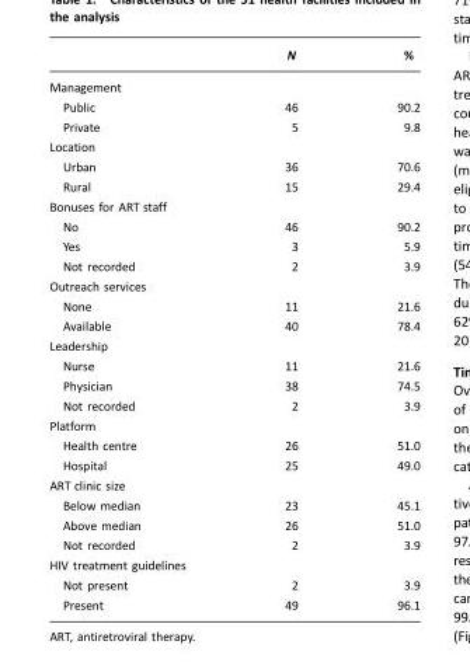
<table><thead><tr><td></td><td>N</td><td>%</td></tr></thead><tbody><tr><td colspan="3">Management</td></tr><tr><td>Public</td><td>46</td><td>90.2</td></tr><tr><td>Private</td><td>5</td><td>9.8</td></tr><tr><td colspan="3">Location</td></tr><tr><td>Urban</td><td>36</td><td>70.6</td></tr><tr><td>Rural</td><td>15</td><td>29.4</td></tr><tr><td colspan="3">Bonuses for ART staff</td></tr><tr><td>No</td><td>46</td><td>90.2</td></tr><tr><td>Yes</td><td>3</td><td>5.9</td></tr><tr><td>Not recorded</td><td>2</td><td>3.9</td></tr><tr><td colspan="3">Outreach services</td></tr><tr><td>None</td><td>11</td><td>21.6</td></tr><tr><td>Available</td><td>40</td><td>78.4</td></tr><tr><td colspan="3">Leadership</td></tr><tr><td>Nurse</td><td>11</td><td>21.6</td></tr><tr><td>Physician</td><td>38</td><td>74.5</td></tr><tr><td>Not recorded</td><td>2</td><td>3.9</td></tr><tr><td colspan="3">Platform</td></tr><tr><td>Health centre</td><td>26</td><td>51.0</td></tr><tr><td>Hospital</td><td>25</td><td>49.0</td></tr><tr><td colspan="3">ART clinic size</td></tr><tr><td>Below median</td><td>23</td><td>45.1</td></tr><tr><td>Above median</td><td>26</td><td>51.0</td></tr><tr><td>Not recorded</td><td>2</td><td>3.9</td></tr><tr><td colspan="3">HIV treatment guidelines</td></tr><tr><td>Not present</td><td>2</td><td>3.9</td></tr><tr><td>Present</td><td>49</td><td>96.1</td></tr></tbody></table>